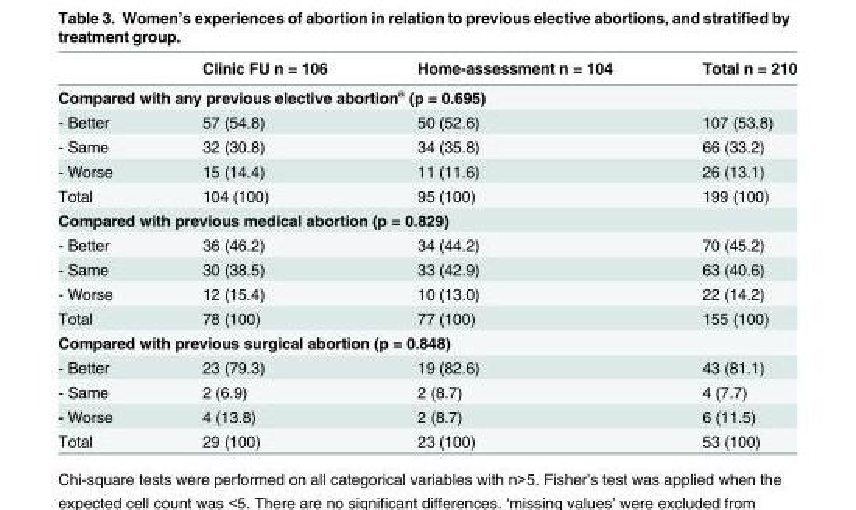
<table><thead><tr><td></td><td>Clinic FU n = 106</td><td>Home-assessment n = 104</td><td>Total n = 210</td></tr></thead><tbody><tr><td colspan="4">Compared with any previous elective abortion<sup>a</sup> (p = 0.695)</td></tr><tr><td>- Better</td><td>57 (54.8)</td><td>50 (52.6)</td><td>107 (53.8)</td></tr><tr><td>- Same</td><td>32 (30.8)</td><td>34 (35.8)</td><td>66 (33.2)</td></tr><tr><td>- Worse</td><td>15 (14.4)</td><td>11 (11.6)</td><td>26 (13.1)</td></tr><tr><td>Total</td><td>104 (100)</td><td>95 (100)</td><td>199 (100)</td></tr><tr><td colspan="4">Compared with previous medical abortion (p = 0.829)</td></tr><tr><td>- Better</td><td>36 (46.2)</td><td>34 (44.2)</td><td>70 (45.2)</td></tr><tr><td>- Same</td><td>30 (38.5)</td><td>33 (42.9)</td><td>63 (40.6)</td></tr><tr><td>- Worse</td><td>12 (15.4)</td><td>10 (13.0)</td><td>22 (14.2)</td></tr><tr><td>Total</td><td>78 (100)</td><td>77 (100)</td><td>155 (100)</td></tr><tr><td colspan="4">Compared with previous surgical abortion (p = 0.848)</td></tr><tr><td>- Better</td><td>23 (79.3)</td><td>19 (82.6)</td><td>43 (81.1)</td></tr><tr><td>- Same</td><td>2 (6.9)</td><td>2 (8.7)</td><td>4 (7.7)</td></tr><tr><td>- Worse</td><td>4 (13.8)</td><td>2 (8.7)</td><td>6 (11.5)</td></tr><tr><td>Total</td><td>29 (100)</td><td>23 (100)</td><td>53 (100)</td></tr></tbody></table>